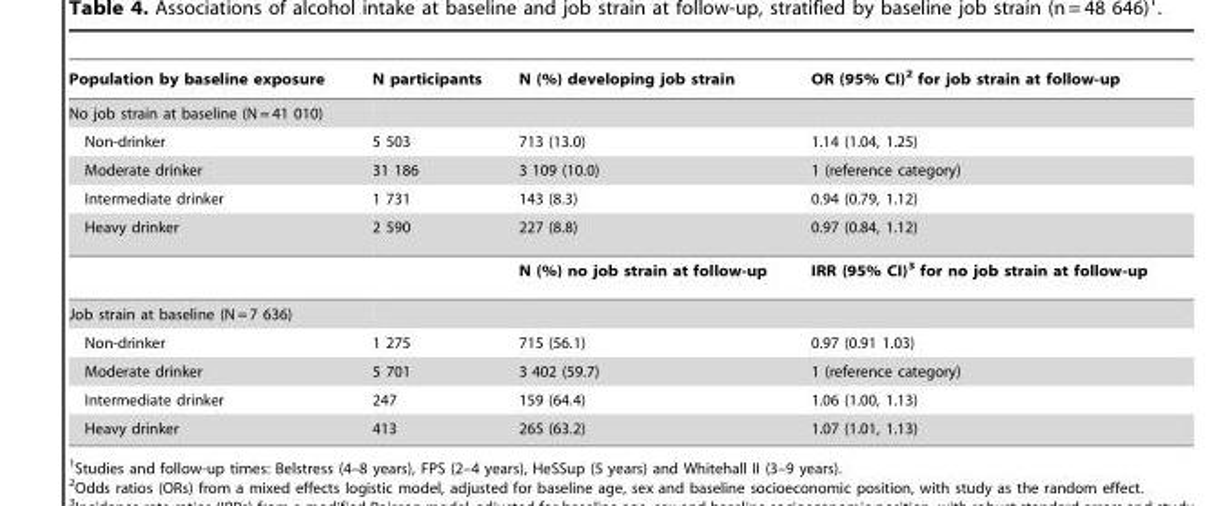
<table><thead><tr><td>Population by baseline exposure</td><td>N participants</td><td>N (%) developing job strain</td><td>OR (95% CI)<sup>2</sup> for job strain at follow-up</td></tr></thead><tbody><tr><td colspan="4">No job strain at baseline (N = 41 010)</td></tr><tr><td>Non-drinker</td><td>5 503</td><td>713 (13.0)</td><td>1.14 (1.04, 1.25)</td></tr><tr><td>Moderate drinker</td><td>31 186</td><td>3 109 (10.0)</td><td>1 (reference category)</td></tr><tr><td>Intermediate drinker</td><td>1 731</td><td>143 (8.3)</td><td>0.94 (0.79, 1.12)</td></tr><tr><td rowspan="2">Heavy drinker</td><td>2 590</td><td>227 (8.8)</td><td>0.97 (0.84, 1.12)</td></tr><tr><td></td><td>N (%) no job strain at follow-up</td><td>IRR (95% CI)3 for no job strain at follow-up</td></tr><tr><td colspan="4">Job strain at baseline (N = 7 636)</td></tr><tr><td>Non-drinker</td><td>1 275</td><td>715 (56.1)</td><td>0.97 (0.91 1.03)</td></tr><tr><td>Moderate drinker</td><td>5 701</td><td>3 402 (59.7)</td><td>1 (reference category)</td></tr><tr><td>Intermediate drinker</td><td>247</td><td>159 (64.4)</td><td>1.06 (1.00, 1.13)</td></tr><tr><td>Heavy drinker</td><td>413</td><td>265 (63.2)</td><td>1.07 (1.01, 1.13)</td></tr></tbody></table>